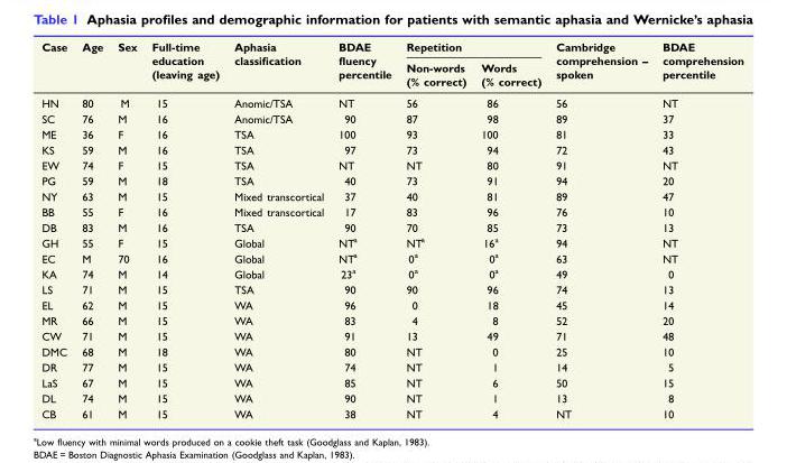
<table><thead><tr><td rowspan="2">Case</td><td rowspan="2">Age</td><td rowspan="2">Sex</td><td rowspan="2">Full-time education (leaving age)</td><td rowspan="2">Aphasia classification</td><td rowspan="2">BDAE fluency percentile</td><td colspan="2">Repetition</td><td rowspan="2">Cambridge comprehension – spoken</td><td rowspan="2">BDAE comprehension percentile</td></tr><tr><td>Non-words (% correct)</td><td>Words (% correct)</td></tr></thead><tbody><tr><td>HN</td><td>80</td><td>M</td><td>15</td><td>Anomic/TSA</td><td>NT</td><td>56</td><td>86</td><td>56</td><td>NT</td></tr><tr><td>SC</td><td>76</td><td>M</td><td>16</td><td>Anomic/TSA</td><td>90</td><td>87</td><td>98</td><td>89</td><td>37</td></tr><tr><td>ME</td><td>36</td><td>F</td><td>16</td><td>TSA</td><td>100</td><td>93</td><td>100</td><td>81</td><td>33</td></tr><tr><td>KS</td><td>59</td><td>M</td><td>16</td><td>TSA</td><td>97</td><td>73</td><td>94</td><td>72</td><td>43</td></tr><tr><td>EW</td><td>74</td><td>F</td><td>15</td><td>TSA</td><td>NT</td><td>NT</td><td>80</td><td>91</td><td>NT</td></tr><tr><td>PG</td><td>59</td><td>M</td><td>18</td><td>TSA</td><td>40</td><td>73</td><td>91</td><td>94</td><td>20</td></tr><tr><td>NY</td><td>63</td><td>M</td><td>15</td><td>Mixed transcortical</td><td>37</td><td>40</td><td>81</td><td>89</td><td>47</td></tr><tr><td>BB</td><td>55</td><td>F</td><td>16</td><td>Mixed transcortical</td><td>17</td><td>83</td><td>96</td><td>76</td><td>10</td></tr><tr><td>DB</td><td>83</td><td>M</td><td>16</td><td>TSA</td><td>90</td><td>70</td><td>85</td><td>73</td><td>13</td></tr><tr><td>GH</td><td>55</td><td>F</td><td>15</td><td>Global</td><td>NT<sup>a</sup></td><td>NT<sup>a</sup></td><td>16<sup>a</sup></td><td>94</td><td>NT</td></tr><tr><td>EC</td><td>M</td><td>70</td><td>16</td><td>Global</td><td>NT<sup>a</sup></td><td>0<sup>a</sup></td><td>0<sup>a</sup></td><td>63</td><td>NT</td></tr><tr><td>KA</td><td>74</td><td>M</td><td>14</td><td>Global</td><td>23<sup>a</sup></td><td>0<sup>a</sup></td><td>0<sup>a</sup></td><td>49</td><td>0</td></tr><tr><td>LS</td><td>71</td><td>M</td><td>15</td><td>TSA</td><td>90</td><td>90</td><td>96</td><td>74</td><td>13</td></tr><tr><td>EL</td><td>62</td><td>M</td><td>15</td><td>WA</td><td>96</td><td>0</td><td>18</td><td>45</td><td>14</td></tr><tr><td>MR</td><td>66</td><td>M</td><td>15</td><td>WA</td><td>83</td><td>4</td><td>8</td><td>52</td><td>20</td></tr><tr><td>CW</td><td>71</td><td>M</td><td>15</td><td>WA</td><td>91</td><td>13</td><td>49</td><td>71</td><td>48</td></tr><tr><td>DMC</td><td>68</td><td>M</td><td>18</td><td>WA</td><td>80</td><td>NT</td><td>0</td><td>25</td><td>10</td></tr><tr><td>DR</td><td>77</td><td>M</td><td>15</td><td>WA</td><td>74</td><td>NT</td><td>1</td><td>14</td><td>5</td></tr><tr><td>LaS</td><td>67</td><td>M</td><td>15</td><td>WA</td><td>85</td><td>NT</td><td>6</td><td>50</td><td>15</td></tr><tr><td>DL</td><td>74</td><td>M</td><td>15</td><td>WA</td><td>90</td><td>NT</td><td>1</td><td>13</td><td>8</td></tr><tr><td>CB</td><td>61</td><td>M</td><td>15</td><td>WA</td><td>38</td><td>NT</td><td>4</td><td>NT</td><td>10</td></tr></tbody></table>